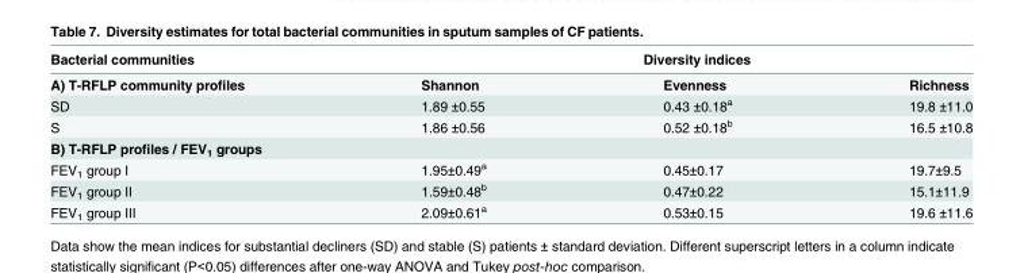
<table><thead><tr><td rowspan="2">Bacterial communities A) T-RFLP community profiles</td><td colspan="3">Diversity indices</td></tr><tr><td>Shannon</td><td>Evenness</td><td>Richness</td></tr></thead><tbody><tr><td>SD</td><td>1.89 ±0.55</td><td>0.43 ±0.18<sup>a</sup></td><td>19.8 ±11.0</td></tr><tr><td>S</td><td>1.86 ±0.56</td><td>0.52 ±0.18<sup>b</sup></td><td>16.5 ±10.8</td></tr><tr><td colspan="4">B) T-RFLP profiles / FEV<sub>1</sub> groups</td></tr><tr><td>FEV<sub>1</sub> group I</td><td>1.95±0.49<sup>a</sup></td><td>0.45±0.17</td><td>19.7±9.5</td></tr><tr><td>FEV<sub>1</sub> group II</td><td>1.59±0.48<sup>b</sup></td><td>0.47±0.22</td><td>15.1±11.9</td></tr><tr><td>FEV<sub>1</sub> group III</td><td>2.09±0.61<sup>a</sup></td><td>0.53±0.15</td><td>19.6 ±11.6</td></tr></tbody></table>